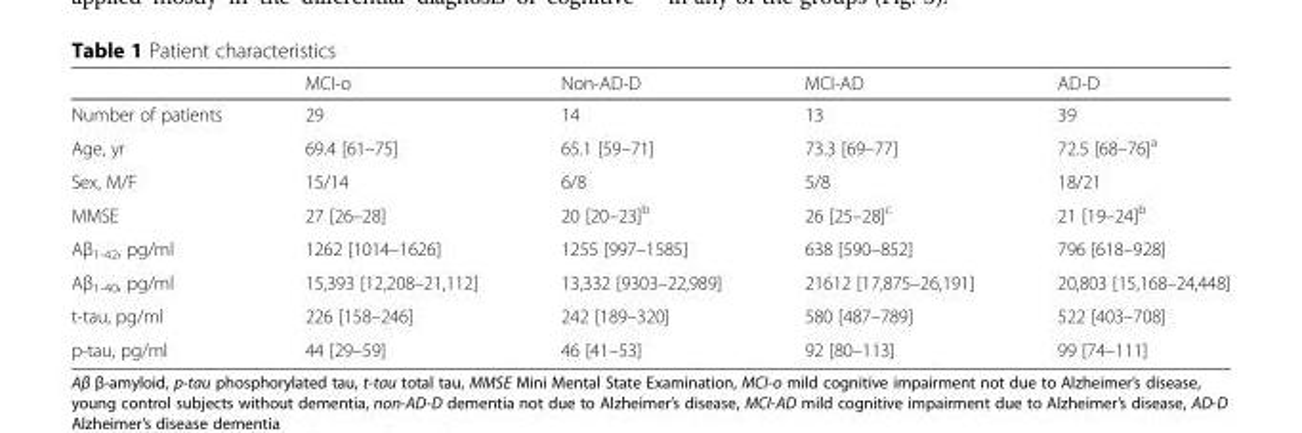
<table><thead><tr><td></td><td>MCI-o</td><td>Non-AD-D</td><td>MCI-AD</td><td>AD-D</td></tr></thead><tbody><tr><td>Number of patients</td><td>29</td><td>14</td><td>13</td><td>39</td></tr><tr><td>Age, yr</td><td>69.4 [61–75]</td><td>65.1 [59–71]</td><td>73.3 [69–77]</td><td>72.5 [68–76]<sup>a</sup></td></tr><tr><td>Sex, M/F</td><td>15/14</td><td>6/8</td><td>5/8</td><td>18/21</td></tr><tr><td>MMSE</td><td>27 [26–28]</td><td>20 [20–23]<sup>b</sup></td><td>26 [25–28]<sup>c</sup></td><td>21 [19–24]<sup>b</sup></td></tr><tr><td>Aβ<sub>1-42</sub>, pg/ml</td><td>1262 [1014–1626]</td><td>1255 [997–1585]</td><td>638 [590–852]</td><td>796 [618–928]</td></tr><tr><td>Aβ<sub>1-40</sub>, pg/ml</td><td>15,393 [12,208–21,112]</td><td>13,332 [9303–22,989]</td><td>21612 [17,875–26,191]</td><td>20,803 [15,168–24,448]</td></tr><tr><td>t-tau, pg/ml</td><td>226 [158–246]</td><td>242 [189–320]</td><td>580 [487–789]</td><td>522 [403–708]</td></tr><tr><td>p-tau, pg/ml</td><td>44 [29–59]</td><td>46 [41–53]</td><td>92 [80–113]</td><td>99 [74–111]</td></tr></tbody></table>